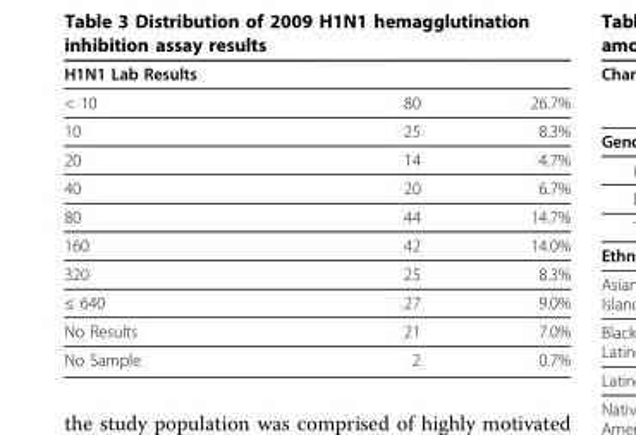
<table><thead><tr><td>H1N1 Lab Results</td><td></td><td></td></tr></thead><tbody><tr><td>&lt; 10</td><td>80</td><td>26.7%</td></tr><tr><td>10</td><td>25</td><td>8.3%</td></tr><tr><td>20</td><td>14</td><td>4.7%</td></tr><tr><td>40</td><td>20</td><td>6.7%</td></tr><tr><td>80</td><td>44</td><td>14.7%</td></tr><tr><td>160</td><td>42</td><td>14.0%</td></tr><tr><td>320</td><td>25</td><td>8.3%</td></tr><tr><td>≤ 640</td><td>27</td><td>9.0%</td></tr><tr><td>No Results</td><td>21</td><td>7.0%</td></tr><tr><td>No Sample</td><td>2</td><td>0.7%</td></tr></tbody></table>